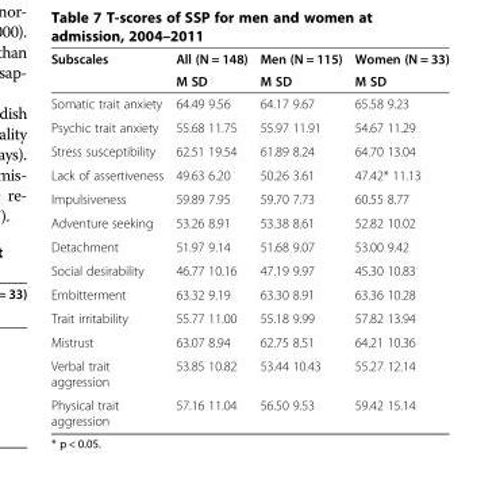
<table><thead><tr><td rowspan="2">Subscales</td><td rowspan="2">All (N = 148) M SD</td><td rowspan="2">Men (N = 115) M SD</td><td rowspan="2">Women (N = 33) M SD</td></tr><tr></tr></thead><tbody><tr><td>Somatic trait anxiety</td><td>64.49 9.56</td><td>64.17 9.67</td><td>65.58 9.23</td></tr><tr><td>Psychic trait anxiety</td><td>55.68 11.75</td><td>55.97 11.91</td><td>54.67 11.29</td></tr><tr><td>Stress susceptibility</td><td>62.51 19.54</td><td>61.89 8.24</td><td>64.70 13.04</td></tr><tr><td>Lack of assertiveness</td><td>49.63 6.20</td><td>50.26 3.61</td><td>47.42* 11.13</td></tr><tr><td>Impulsiveness</td><td>59.89 7.95</td><td>59.70 7.73</td><td>60.55 8.77</td></tr><tr><td>Adventure seeking</td><td>53.26 8.91</td><td>53.38 8.61</td><td>52.82 10.02</td></tr><tr><td>Detachment</td><td>51.97 9.14</td><td>51.68 9.07</td><td>53.00 9.42</td></tr><tr><td>Social desirability</td><td>46.77 10.16</td><td>47.19 9.97</td><td>45.30 10.83</td></tr><tr><td>Embitterment</td><td>63.32 9.19</td><td>63.30 8.91</td><td>63.36 10.28</td></tr><tr><td>Trait irritability</td><td>55.77 11.00</td><td>55.18 9.99</td><td>57.82 13.94</td></tr><tr><td>Mistrust</td><td>63.07 8.94</td><td>62.75 8.51</td><td>64.21 10.36</td></tr><tr><td>Verbal trait aggression</td><td>53.85 10.82</td><td>53.44 10.43</td><td>55.27 12.14</td></tr><tr><td>Physical trait aggression</td><td>57.16 11.04</td><td>56.50 9.53</td><td>59.42 15.14</td></tr></tbody></table>